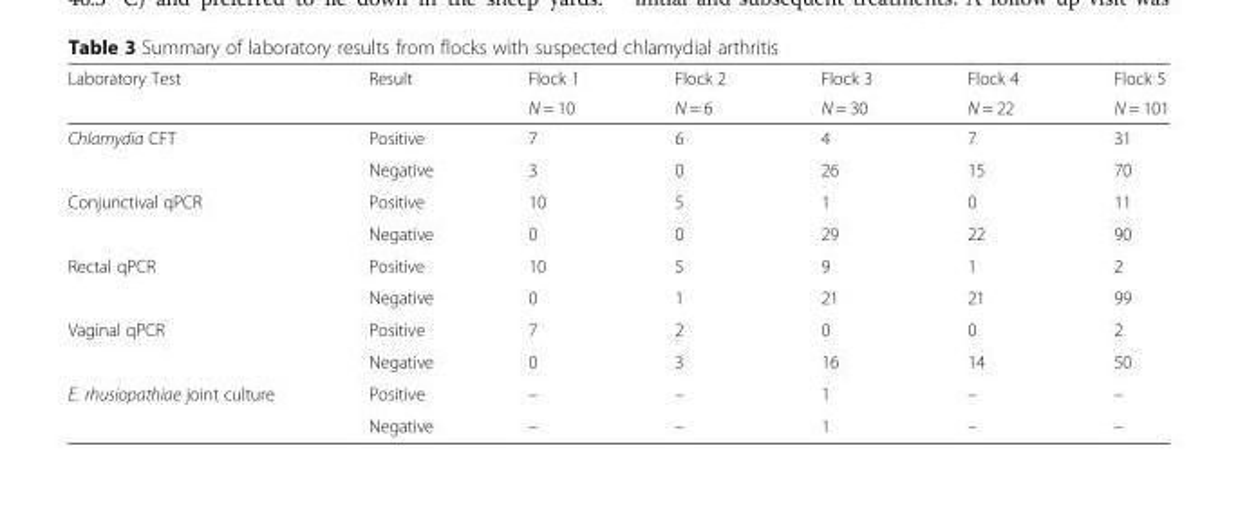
<table><thead><tr><td rowspan="2">Laboratory Test</td><td rowspan="2">Result</td><td rowspan="2">Flock 1 N = 10</td><td rowspan="2">Flock 2 N = 6</td><td rowspan="2">FIock 3 N = 30</td><td rowspan="2">Flock 4 N = 22</td><td rowspan="2">Flock 5 N = 101</td></tr><tr></tr></thead><tbody><tr><td rowspan="2">Chlamydia CFT</td><td>Positive</td><td>7</td><td>6</td><td>4</td><td>7</td><td>31</td></tr><tr><td>Negative</td><td>3</td><td>0</td><td>26</td><td>15</td><td>70</td></tr><tr><td rowspan="2">Conjunctival qPCR</td><td>Positive</td><td>10</td><td>5</td><td>1</td><td>0</td><td>11</td></tr><tr><td>Negative</td><td>0</td><td>0</td><td>29</td><td>22</td><td>90</td></tr><tr><td rowspan="2">Rectal qPCR</td><td>Positive</td><td>10</td><td>5</td><td>9</td><td>1</td><td>2</td></tr><tr><td>Negative</td><td>0</td><td>1</td><td>21</td><td>21</td><td>99</td></tr><tr><td rowspan="2">Vaginal qPCR</td><td>Positive</td><td>7</td><td>2</td><td>0</td><td>0</td><td>2</td></tr><tr><td>Negative</td><td>0</td><td>3</td><td>16</td><td>14</td><td>50</td></tr><tr><td rowspan="2">E. rhusiopathiae joint culture</td><td>Positive</td><td>–</td><td>–</td><td>1</td><td>–</td><td>–</td></tr><tr><td>Negative</td><td>–</td><td>–</td><td>1</td><td>–</td><td>–</td></tr></tbody></table>